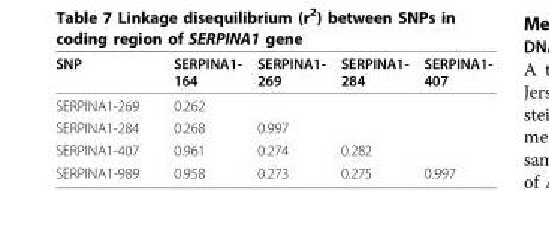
<table><thead><tr><td>SNP</td><td>SERPINA1- 164</td><td>SERPINA1- 269</td><td>SERPINA1- 284</td><td>SERPINA1- 407</td></tr></thead><tbody><tr><td>SERPINA1-269</td><td>0.262</td><td></td><td></td><td></td></tr><tr><td>SERPINA1-284</td><td>0.268</td><td>0.997</td><td></td><td></td></tr><tr><td>SERPINA1-407</td><td>0.961</td><td>0.274</td><td>0.282</td><td></td></tr><tr><td>SERPINA1-989</td><td>0.958</td><td>0.273</td><td>0.275</td><td>0.997</td></tr></tbody></table>